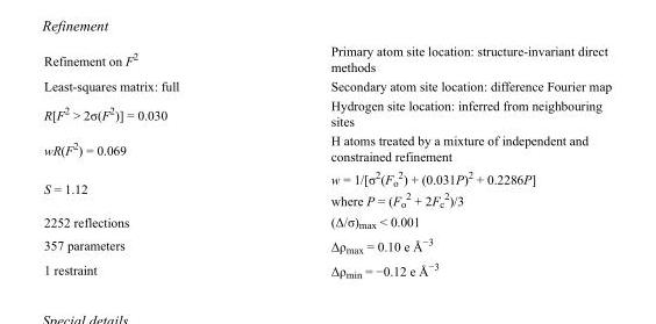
<table><tbody><tr><td>Refinement on F<sup>2</sup></td><td>Primary atom site location: structure-invariant direct methods</td></tr><tr><td>Least-squares matrix: full</td><td>Secondary atom site location: difference Fourier map</td></tr><tr><td>R[F<sup>2</sup> &gt; 2σ(F<sup>2</sup>)] = 0.030</td><td>Hydrogen site location: inferred from neighbouring sites</td></tr><tr><td>wR(F<sup>2</sup>) = 0.069</td><td>H atoms treated by a mixture of independent and constrained refinement</td></tr><tr><td>S = 1.12</td><td>w = 1/[σ<sup>2</sup>(F<sub>o</sub> <sup>2</sup>) + (0.031P)<sup>2</sup> + 0.2286P] where P = (F<sub>o</sub> <sup>2</sup> + 2F<sub>c</sub> <sup>2</sup>)/3</td></tr><tr><td>2252 reflections</td><td>(Δ/σ)<sub>max</sub> &lt; 0.001</td></tr><tr><td>357 parameters</td><td>Δρ<sub>max</sub> = 0.10 e Å<sup>−3</sup></td></tr><tr><td>1 restraint</td><td>Δρ<sub>min</sub> = −0.12 e Å<sup>−3</sup></td></tr></tbody></table>